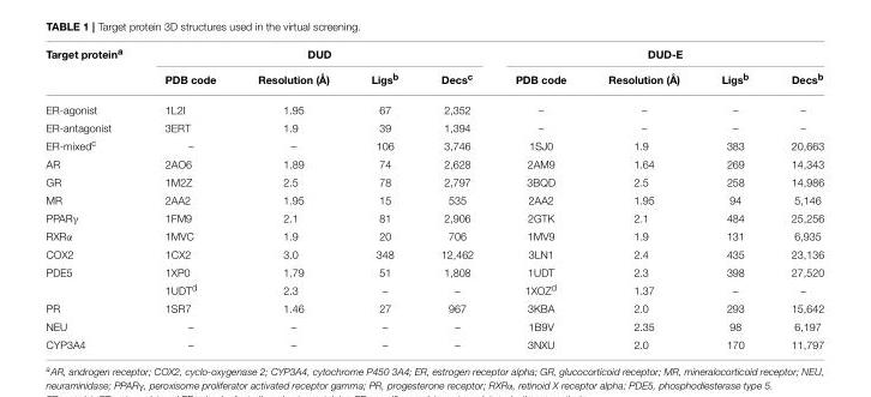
<table><thead><tr><td rowspan="2">Target protein<sup>a</sup></td><td colspan="4">DUD</td><td colspan="4">DUD-E</td></tr><tr><td>PDB code</td><td>Resolution (Å)</td><td>Ligs<sup>b</sup></td><td>Decs<sup>c</sup></td><td>PDB code</td><td>Resolution (Å)</td><td>Ligs<sup>b</sup></td><td>Decs<sup>b</sup></td></tr></thead><tbody><tr><td>ER-agonist</td><td>1L2I</td><td>1.95</td><td>67</td><td>2,352</td><td>–</td><td>–</td><td>–</td><td>–</td></tr><tr><td>ER-antagonist</td><td>3ERT</td><td>1.9</td><td>39</td><td>1,394</td><td>–</td><td>–</td><td>–</td><td>–</td></tr><tr><td>ER-mixed<sup>c</sup></td><td>–</td><td>–</td><td>106</td><td>3,746</td><td>1SJ0</td><td>1.9</td><td>383</td><td>20,663</td></tr><tr><td>AR</td><td>2AO6</td><td>1.89</td><td>74</td><td>2,628</td><td>2AM9</td><td>1.64</td><td>269</td><td>14,343</td></tr><tr><td>GR</td><td>1M2Z</td><td>2.5</td><td>78</td><td>2,797</td><td>3BQD</td><td>2.5</td><td>258</td><td>14,986</td></tr><tr><td>MR</td><td>2AA2</td><td>1.95</td><td>15</td><td>535</td><td>2AA2</td><td>1.95</td><td>94</td><td>5,146</td></tr><tr><td>PPARγ</td><td>1FM9</td><td>2.1</td><td>81</td><td>2,906</td><td>2GTK</td><td>2.1</td><td>484</td><td>25,256</td></tr><tr><td>RXRα</td><td>1MVC</td><td>1.9</td><td>20</td><td>706</td><td>1MV9</td><td>1.9</td><td>131</td><td>6,935</td></tr><tr><td>COX2</td><td>1CX2</td><td>3.0</td><td>348</td><td>12,462</td><td>3LN1</td><td>2.4</td><td>435</td><td>23,136</td></tr><tr><td rowspan="2">PDE5</td><td>1XP0</td><td>1.79</td><td>51</td><td>1,808</td><td>1UDT</td><td>2.3</td><td>398</td><td>27,520</td></tr><tr><td>1UDT<sup>d</sup></td><td>2.3</td><td>–</td><td>–</td><td>1XOZ<sup>d</sup></td><td>1.37</td><td>–</td><td>–</td></tr><tr><td>PR</td><td>1SR7</td><td>1.46</td><td>27</td><td>967</td><td>3KBA</td><td>2.0</td><td>293</td><td>15,642</td></tr><tr><td>NEU</td><td>–</td><td>–</td><td>–</td><td>–</td><td>1B9V</td><td>2.35</td><td>98</td><td>6,197</td></tr><tr><td>CYP3A4</td><td>–</td><td>–</td><td>–</td><td>–</td><td>3NXU</td><td>2.0</td><td>170</td><td>11,797</td></tr></tbody></table>